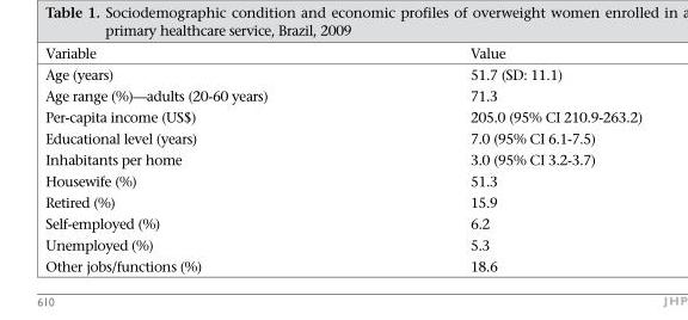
<table><thead><tr><td>Variable</td><td>Value</td></tr></thead><tbody><tr><td>Age (years)</td><td>51.7 (SD: 11.1)</td></tr><tr><td>Age range (%)—adults (20-60 years)</td><td>71.3</td></tr><tr><td>Per-capita income (US$)</td><td>205.0 (95% CI 210.9-263.2)</td></tr><tr><td>Educational level (years)</td><td>7.0 (95% CI 6.1-7.5)</td></tr><tr><td>Inhabitants per home</td><td>3.0 (95% CI 3.2-3.7)</td></tr><tr><td>Housewife (%)</td><td>51.3</td></tr><tr><td>Retired (%)</td><td>15.9</td></tr><tr><td>Self-employed (%)</td><td>6.2</td></tr><tr><td>Unemployed (%)</td><td>5.3</td></tr><tr><td>Other jobs/functions (%)</td><td>18.6</td></tr></tbody></table>